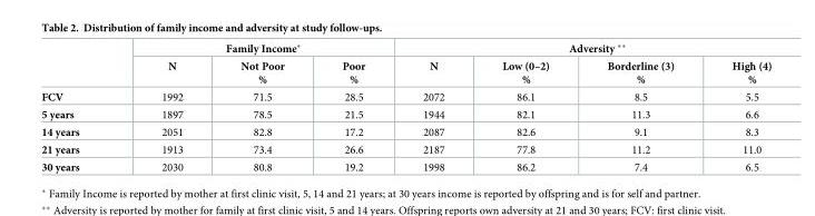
<table><thead><tr><td rowspan="2"></td><td colspan="3">Family Income*</td><td colspan="4">Adversity **</td></tr><tr><td>N</td><td>Not Poor %</td><td>Poor %</td><td>N</td><td>Low (0–2) %</td><td>Borderline (3) %</td><td>High (4) %</td></tr></thead><tbody><tr><td>FCV</td><td>1992</td><td>71.5</td><td>28.5</td><td>2072</td><td>86.1</td><td>8.5</td><td>5.5</td></tr><tr><td>5 years</td><td>1897</td><td>78.5</td><td>21.5</td><td>1944</td><td>82.1</td><td>11.3</td><td>6.6</td></tr><tr><td>14 years</td><td>2051</td><td>82.8</td><td>17.2</td><td>2087</td><td>82.6</td><td>9.1</td><td>8.3</td></tr><tr><td>21 years</td><td>1913</td><td>73.4</td><td>26.6</td><td>2187</td><td>77.8</td><td>11.2</td><td>11.0</td></tr><tr><td>30 years</td><td>2030</td><td>80.8</td><td>19.2</td><td>1998</td><td>86.2</td><td>7.4</td><td>6.5</td></tr></tbody></table>